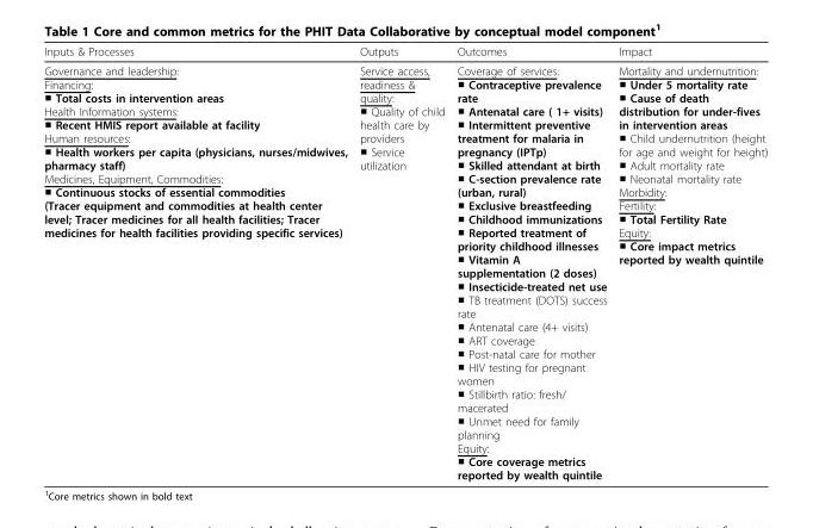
<table><thead><tr><td>Inputs &amp; Processes</td><td>Outputs</td><td>Outcomes</td><td>Impact</td></tr></thead><tbody><tr><td>Governance and leadership: Financing: ■ Total costs in intervention areas Health Information systems: ■ Recent HMIS report available at facility Human resources: ■ Health workers per capita (physicians, nurses/midwives, pharmacy staff) Medicines, Equipment, Commodities: ■ Continuous stocks of essential commodities (Tracer equipment and commodities at health center level; Tracer medicines for all health facilities; Tracer medicines for health facilities providing specific services)</td><td>Service access, readiness &amp; quality: ■ Quality of child health care by providers ■ Service utilization</td><td>Coverage of services: ■ Contraceptive prevalence rate ■ Antenatal care ( 1+ visits) ■ Intermittent preventive treatment for malaria in pregnancy (IPTp) ■ Skilled attendant at birth ■ C-section prevalence rate (urban, rural) ■ Exclusive breastfeeding ■ Childhood immunizations ■ Reported treatment of priority childhood illnesses ■ Vitamin A supplementation (2 doses) ■ Insecticide-treated net use ■ TB treatment (DOTS) success rate ■ Antenatal care (4+ visits) ■ ART coverage ■ Post-natal care for mother ■ HIV testing for pregnant women ■ Stillbirth ratio: fresh/ macerated ■ Unmet need for family planning Equity: ■ Core coverage metrics reported by wealth quintile</td><td>Mortality and undernutrition: ■ Under 5 mortality rate ■ Cause of death distribution for under-fives in intervention areas ■ Child undernutrition (height for age and weight for height) ■ Adult mortality rate ■ Neonatal mortality rate Morbidity: Fertility: ■ Total Fertility Rate Equity: ■ Core impact metrics reported by wealth quintile</td></tr></tbody></table>